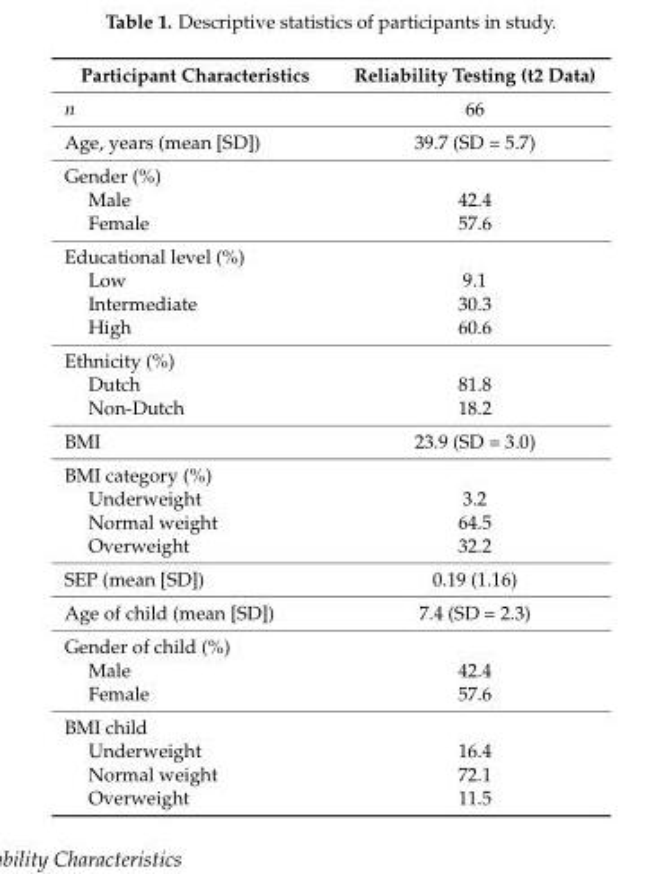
<table><thead><tr><td>Participant Characteristics</td><td>Reliability Testing (t2 Data)</td></tr></thead><tbody><tr><td>n</td><td>66</td></tr><tr><td>Age, years (mean [SD])</td><td>39.7 (SD = 5.7)</td></tr><tr><td colspan="2">Gender (%)</td></tr><tr><td>Male</td><td>42.4</td></tr><tr><td>Female</td><td>57.6</td></tr><tr><td colspan="2">Educational level (%)</td></tr><tr><td>Low</td><td>9.1</td></tr><tr><td>Intermediate</td><td>30.3</td></tr><tr><td>High</td><td>60.6</td></tr><tr><td colspan="2">Ethnicity (%)</td></tr><tr><td>Dutch</td><td>81.8</td></tr><tr><td>Non-Dutch</td><td>18.2</td></tr><tr><td>BMI</td><td>23.9 (SD = 3.0)</td></tr><tr><td colspan="2">BMI category (%)</td></tr><tr><td>Underweight</td><td>3.2</td></tr><tr><td>Normal weight</td><td>64.5</td></tr><tr><td>Overweight</td><td>32.2</td></tr><tr><td>SEP (mean [SD])</td><td>0.19 (1.16)</td></tr><tr><td>Age of child (mean [SD])</td><td>7.4 (SD = 2.3)</td></tr><tr><td colspan="2">Gender of child (%)</td></tr><tr><td>Male</td><td>42.4</td></tr><tr><td>Female</td><td>57.6</td></tr><tr><td colspan="2">BMI child</td></tr><tr><td>Underweight</td><td>16.4</td></tr><tr><td>Normal weight</td><td>72.1</td></tr><tr><td>Overweight</td><td>11.5</td></tr></tbody></table>